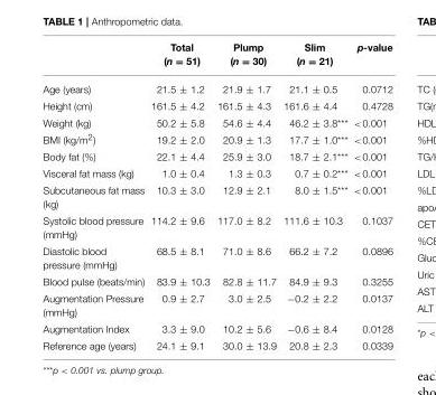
<table><thead><tr><td></td><td>Total (n = 51)</td><td>Plump (n = 30)</td><td>Slim (n = 21)</td><td>p-value</td></tr></thead><tbody><tr><td>Age (years)</td><td>21.5 ± 1.2</td><td>21.9 ± 1.7</td><td>21.1 ± 0.5</td><td>0.0712</td></tr><tr><td>Height (cm)</td><td>161.5 ± 4.2</td><td>161.5 ± 4.3</td><td>161.6 ± 4.4</td><td>0.4728</td></tr><tr><td>Weight (kg)</td><td>50.2 ± 5.8</td><td>54.6 ± 4.4</td><td>46.2 ± 3.8***</td><td>&lt;0.001</td></tr><tr><td>BMI (kg/m<sup>2</sup>)</td><td>19.2 ± 2.0</td><td>20.9 ± 1.3</td><td>17.7 ± 1.0***</td><td>&lt;0.001</td></tr><tr><td>Body fat (%)</td><td>22.1 ± 4.4</td><td>25.9 ± 3.0</td><td>18.7 ± 2.1***</td><td>&lt;0.001</td></tr><tr><td>Visceral fat mass (kg)</td><td>1.0 ± 0.4</td><td>1.3 ± 0.3</td><td>0.7 ± 0.2***</td><td>&lt;0.001</td></tr><tr><td>Subcutaneous fat mass (kg)</td><td>10.3 ± 3.0</td><td>12.9 ± 2.1</td><td>8.0 ± 1.5***</td><td>&lt;0.001</td></tr><tr><td>Systolic blood pressure (mmHg)</td><td>114.2 ± 9.6</td><td>117.0 ± 8.2</td><td>111.6 ± 10.3</td><td>0.1037</td></tr><tr><td>Diastolic blood pressure (mmHg)</td><td>68.5 ± 8.1</td><td>71.0 ± 8.6</td><td>66.2 ± 7.2</td><td>0.0896</td></tr><tr><td>Blood pulse (beats/min)</td><td>83.9 ± 10.3</td><td>82.8 ± 11.7</td><td>84.9 ± 9.3</td><td>0.3255</td></tr><tr><td>Augmentation Pressure (mmHg)</td><td>0.9 ± 2.7</td><td>3.0 ± 2.5</td><td>−0.2 ± 2.2</td><td>0.0137</td></tr><tr><td>Augmentation Index</td><td>3.3 ± 9.0</td><td>10.2 ± 5.6</td><td>−0.6 ± 8.4</td><td>0.0128</td></tr><tr><td>Reference age (years)</td><td>24.1 ± 9.1</td><td>30.0 ± 13.9</td><td>20.8 ± 2.3</td><td>0.0339</td></tr></tbody></table>